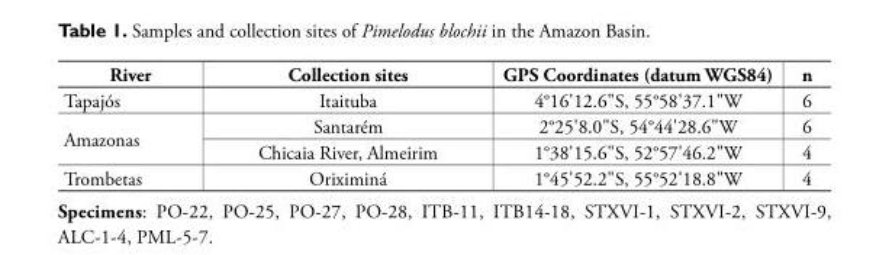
<table><thead><tr><td>River</td><td>Collection sites</td><td>GPS Coordinates (datum WGS84)</td><td>n</td></tr></thead><tbody><tr><td>Tapajós</td><td>Itaituba</td><td>4°16&#x27;12.6&quot;S, 55°58&#x27;37.1&quot;W</td><td>6</td></tr><tr><td rowspan="2">Amazonas</td><td>Santarém</td><td>2°25&#x27;8.0&quot;S, 54°44&#x27;28.6&quot;W</td><td>6</td></tr><tr><td>Chicaia River, Almeirim</td><td>1°38&#x27;15.6&quot;S, 52°57&#x27;46.2&quot;W</td><td>4</td></tr><tr><td>Trombetas</td><td>Oriximiná</td><td>1°45&#x27;52.2&quot;S, 55°52&#x27;18.8&quot;W</td><td>4</td></tr></tbody></table>